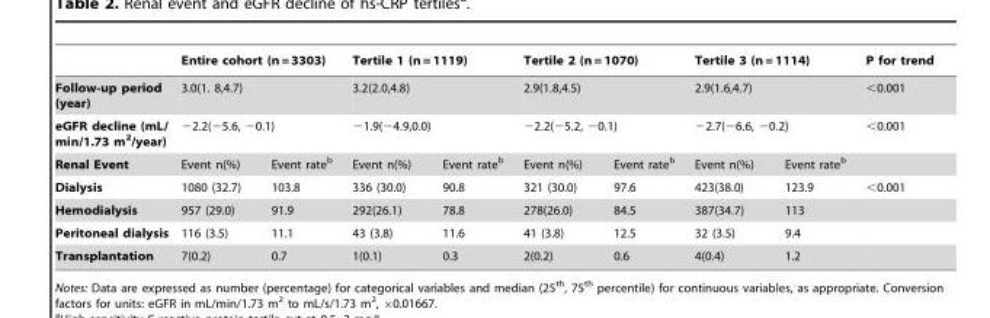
<table><thead><tr><td></td><td colspan="2">Entire cohort (n = 3303)</td><td colspan="2">Tertile 1 (n = 1119)</td><td colspan="2">Tertile 2 (n = 1070)</td><td colspan="2">Tertile 3 (n = 1114)</td><td>P for trend</td></tr></thead><tbody><tr><td>Follow-up period (year)</td><td colspan="2">3.0(1. 8,4.7)</td><td colspan="2">3.2(2.0,4.8)</td><td colspan="2">2.9(1.8,4.5)</td><td colspan="2">2.9(1.6,4.7)</td><td>&lt;0.001</td></tr><tr><td>eGFR decline (mL/ min/1.73 m<sup>2</sup>/year)</td><td colspan="2">−2.2(−5.6, −0.1)</td><td colspan="2">−1.9(−4.9,0.0)</td><td colspan="2">−2.2(−5.2, −0.1)</td><td colspan="2">−2.7(−6.6, −0.2)</td><td>&lt;0.001</td></tr><tr><td>Renal Event</td><td>Event n(%)</td><td>Event rate<sup>b</sup></td><td>Event n(%)</td><td>Event rate<sup>b</sup></td><td>Event n(%)</td><td>Event rate<sup>b</sup></td><td>Event n(%)</td><td colspan="2">Event rate<sup>b</sup></td></tr><tr><td>Dialysis</td><td>1080 (32.7)</td><td>103.8</td><td>336 (30.0)</td><td>90.8</td><td>321 (30.0)</td><td>97.6</td><td>423(38.0)</td><td>123.9</td><td>&lt;0.001</td></tr><tr><td>Hemodialysis</td><td>957 (29.0)</td><td>91.9</td><td>292(26.1)</td><td>78.8</td><td>278(26.0)</td><td>84.5</td><td>387(34.7)</td><td>113</td><td></td></tr><tr><td>Peritoneal dialysis</td><td>116 (3.5)</td><td>11.1</td><td>43 (3.8)</td><td>11.6</td><td>41 (3.8)</td><td>12.5</td><td>32 (3.5)</td><td>9.4</td><td></td></tr><tr><td>Transplantation</td><td>7(0.2)</td><td>0.7</td><td>1(0.1)</td><td>0.3</td><td>2(0.2)</td><td>0.6</td><td>4(0.4)</td><td>1.2</td><td></td></tr></tbody></table>